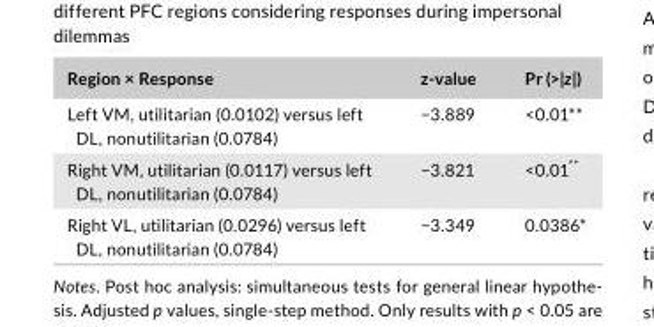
<table><thead><tr><td>Region × Response</td><td>z‐value</td><td>Pr (&gt;|z|)</td></tr></thead><tbody><tr><td>Left VM, utilitarian (0.0102) versus left DL, nonutilitarian (0.0784)</td><td>−3.889</td><td>&lt;0.01**</td></tr><tr><td>Right VM, utilitarian (0.0117) versus left DL, nonutilitarian (0.0784)</td><td>−3.821</td><td>&lt;0.01**</td></tr><tr><td>Right VL, utilitarian (0.0296) versus left DL, nonutilitarian (0.0784)</td><td>−3.349</td><td>0.0386*</td></tr></tbody></table>